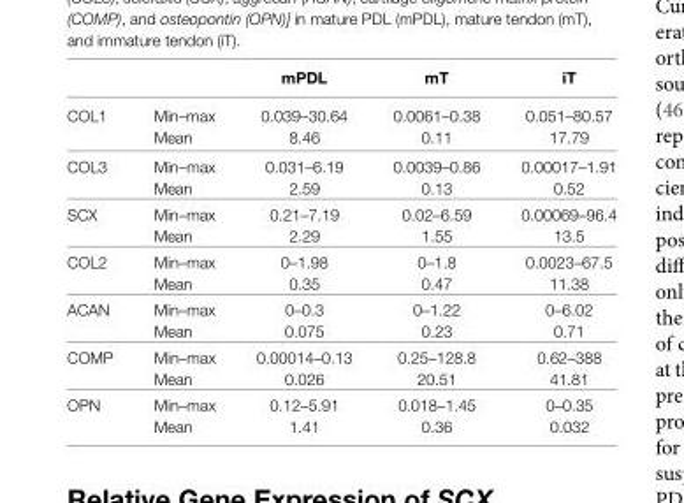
<table><thead><tr><td></td><td></td><td>mPDl</td><td>mT</td><td>iT</td></tr></thead><tbody><tr><td rowspan="2">COL1</td><td>Min–max</td><td>0.039–30.64</td><td>0.0061–0.38</td><td>0.051–80.57</td></tr><tr><td>Mean</td><td>8.46</td><td>0.11</td><td>17.79</td></tr><tr><td rowspan="2">COL3</td><td>Min–max</td><td>0.031–6.19</td><td>0.0039–0.86</td><td>0.00017–1.91</td></tr><tr><td>Mean</td><td>2.59</td><td>0.13</td><td>0.52</td></tr><tr><td rowspan="2">SCX</td><td>Min–max</td><td>0.21–7.19</td><td>0.02–6.59</td><td>0.00069–96.4</td></tr><tr><td>Mean</td><td>2.29</td><td>1.55</td><td>13.5</td></tr><tr><td rowspan="2">COL2</td><td>Min–max</td><td>0–1.98</td><td>0–1.8</td><td>0.0023–67.5</td></tr><tr><td>Mean</td><td>0.35</td><td>0.47</td><td>11.38</td></tr><tr><td rowspan="2">ACAN</td><td>Min–max</td><td>0–0.3</td><td>0–1.22</td><td>0–6.02</td></tr><tr><td>Mean</td><td>0.075</td><td>0.23</td><td>0.71</td></tr><tr><td rowspan="2">COMP</td><td>Min–max</td><td>0.00014–0.13</td><td>0.25–128.8</td><td>0.62–388</td></tr><tr><td>Mean</td><td>0.026</td><td>20.51</td><td>41.81</td></tr><tr><td rowspan="2">OPN</td><td>Min–max</td><td>0.12–5.91</td><td>0.018–1.45</td><td>0–0.35</td></tr><tr><td>Mean</td><td>1.41</td><td>0.36</td><td>0.032</td></tr></tbody></table>